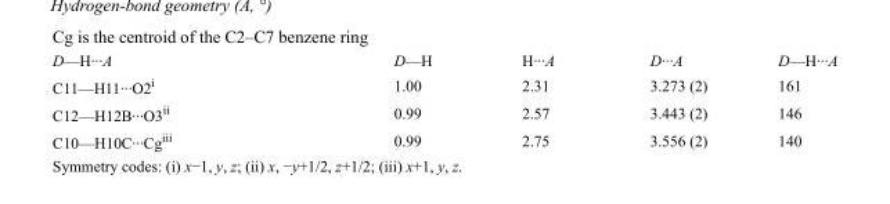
<table><tbody><tr><td>D—H···A</td><td>D—H</td><td>H···A</td><td>D···A</td><td>D—H···A</td></tr><tr><td>C11—H11···O2<sup>i</sup></td><td>1.00</td><td>2.31</td><td>3.273 (2)</td><td>161</td></tr><tr><td>C12—H12B···O3<sup>ii</sup></td><td>0.99</td><td>2.57</td><td>3.443 (2)</td><td>146</td></tr><tr><td>C10—H10C···Cg<sup>iii</sup></td><td>0.99</td><td>2.75</td><td>3.556 (2)</td><td>140</td></tr></tbody></table>